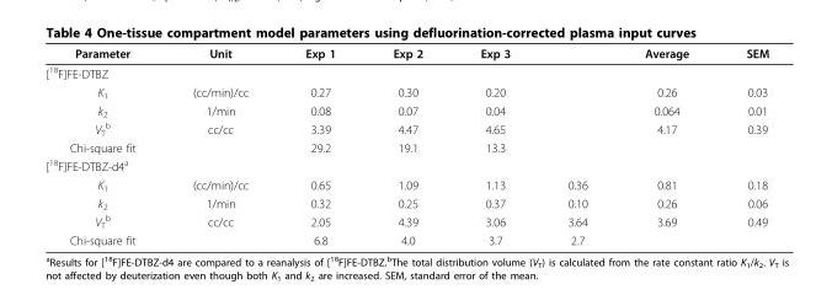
<table><thead><tr><td>Parameter</td><td>Unit</td><td>Exp 1</td><td>Exp 2</td><td>Exp 3</td><td></td><td>Average</td><td>SEM</td></tr></thead><tbody><tr><td colspan="8">[<sup>18</sup>F]FE-DTBZ</td></tr><tr><td>K<sub>1</sub></td><td>(cc/min)/cc</td><td>0.27</td><td>0.30</td><td>0.20</td><td></td><td>0.26</td><td>0.03</td></tr><tr><td>k<sub>2</sub></td><td>1/min</td><td>0.08</td><td>0.07</td><td>0.04</td><td></td><td>0.064</td><td>0.01</td></tr><tr><td>V<sub>T</sub> <sup>b</sup></td><td>cc/cc</td><td>3.39</td><td>4.47</td><td>4.65</td><td></td><td>4.17</td><td>0.39</td></tr><tr><td>Chi-square fit</td><td></td><td>29.2</td><td>19.1</td><td>13.3</td><td></td><td></td><td></td></tr><tr><td colspan="8">[<sup>18</sup>F]FE-DTBZ-d4<sup>a</sup></td></tr><tr><td>K<sub>1</sub></td><td>(cc/min)/cc</td><td>0.65</td><td>1.09</td><td>1.13</td><td>0.36</td><td>0.81</td><td>0.18</td></tr><tr><td>k<sub>2</sub></td><td>1/min</td><td>0.32</td><td>0.25</td><td>0.37</td><td>0.10</td><td>0.26</td><td>0.06</td></tr><tr><td>V<sub>T</sub> <sup>b</sup></td><td>cc/cc</td><td>2.05</td><td>4.39</td><td>3.06</td><td>3.64</td><td>3.69</td><td>0.49</td></tr><tr><td>Chi-square fit</td><td></td><td>6.8</td><td>4.0</td><td>3.7</td><td>2.7</td><td></td><td></td></tr></tbody></table>